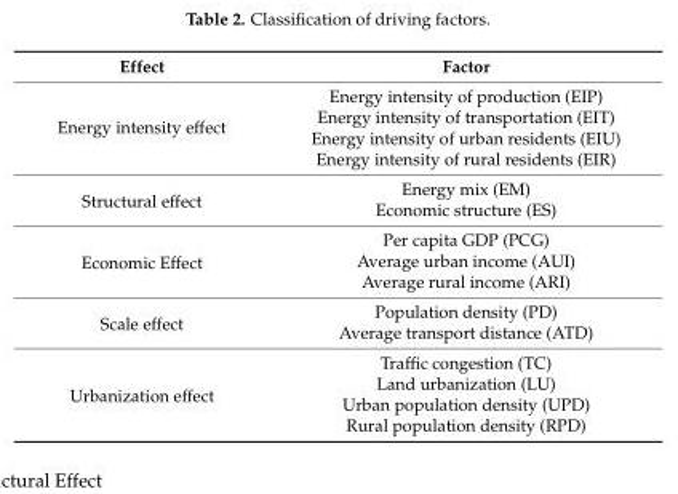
<table><thead><tr><td>Effect</td><td>Factor</td></tr></thead><tbody><tr><td rowspan="4">Energy intensity effect</td><td>Energy intensity of production (EIP)</td></tr><tr><td>Energy intensity of transportation (EIT)</td></tr><tr><td>Energy intensity of urban residents (EIU)</td></tr><tr><td>Energy intensity of rural residents (EIR)</td></tr><tr><td rowspan="2">Structural effect</td><td>Energy mix (EM)</td></tr><tr><td>Economic structure (ES)</td></tr><tr><td rowspan="3">Economic Effect</td><td>Per capita GDP (PCG)</td></tr><tr><td>Average urban income (AUI)</td></tr><tr><td>Average rural income (ARI)</td></tr><tr><td rowspan="2">Scale effect</td><td>Population density (PD)</td></tr><tr><td>Average transport distance (ATD)</td></tr><tr><td rowspan="4">Urbanization effect</td><td>Traffic congestion (TC)</td></tr><tr><td>Land urbanization (LU)</td></tr><tr><td>Urban population density (UPD)</td></tr><tr><td>Rural population density (RPD)</td></tr></tbody></table>